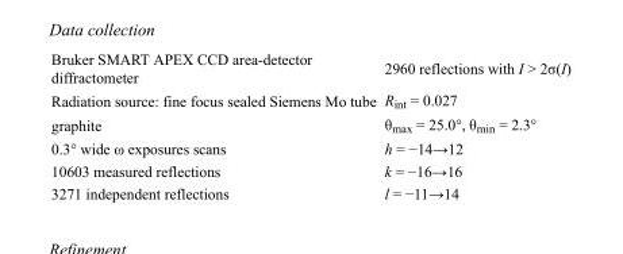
<table><tbody><tr><td>Bruker SMART APEX CCD area-detector diffractometer</td><td>2960 reflections with I &gt; 2σ(I)</td></tr><tr><td>Radiation source: fine focus sealed Siemens Mo tube</td><td>R<sub>int</sub> = 0.027</td></tr><tr><td>graphite</td><td>θ<sub>max</sub> = 25.0°, θ<sub>min</sub> = 2.3°</td></tr><tr><td>0.3° wide ω exposures scans</td><td>h = −14→12</td></tr><tr><td>10603 measured reflections</td><td>k = −16→16</td></tr><tr><td>3271 independent reflections</td><td>l = −11→14</td></tr></tbody></table>